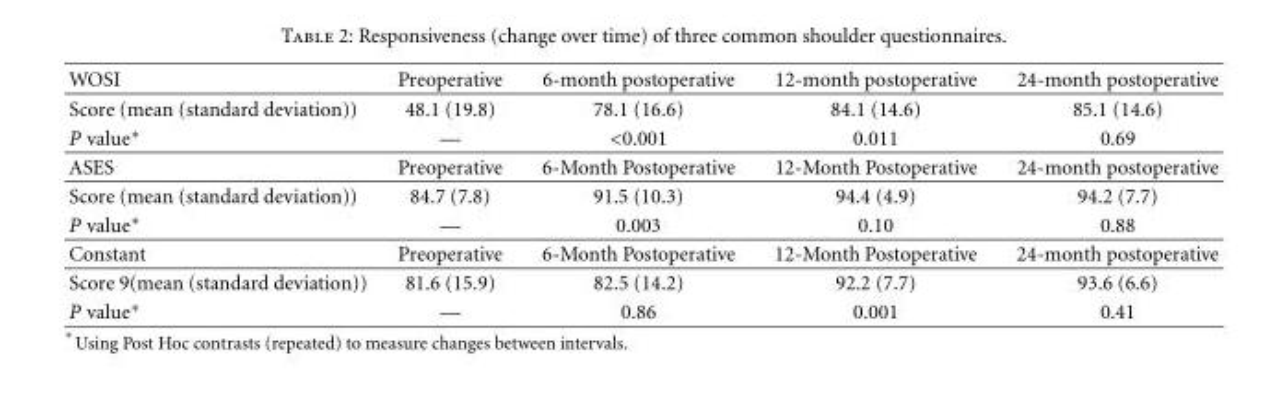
<table><thead><tr><td>WOSI</td><td>Preoperative</td><td>6-month postoperative</td><td>12-month postoperative</td><td>24-month postoperative</td></tr></thead><tbody><tr><td>Score (mean (standard deviation))</td><td>48.1 (19.8)</td><td>78.1 (16.6)</td><td>84.1 (14.6)</td><td>85.1 (14.6)</td></tr><tr><td>P value∗</td><td>—</td><td>&lt;0.001</td><td>0.011</td><td>0.69</td></tr><tr><td>ASES</td><td>Preoperative</td><td>6-Month Postoperative</td><td>12-Month Postoperative</td><td>24-month postoperative</td></tr><tr><td>Score (mean (standard deviation))</td><td>84.7 (7.8)</td><td>91.5 (10.3)</td><td>94.4 (4.9)</td><td>94.2 (7.7)</td></tr><tr><td>P value∗</td><td>—</td><td>0.003</td><td>0.10</td><td>0.88</td></tr><tr><td>Constant</td><td>Preoperative</td><td>6-Month Postoperative</td><td>12-Month Postoperative</td><td>24-month postoperative</td></tr><tr><td>Score 9(mean (standard deviation))</td><td>81.6 (15.9)</td><td>82.5 (14.2)</td><td>92.2 (7.7)</td><td>93.6 (6.6)</td></tr><tr><td>P value∗</td><td>—</td><td>0.86</td><td>0.001</td><td>0.41</td></tr></tbody></table>